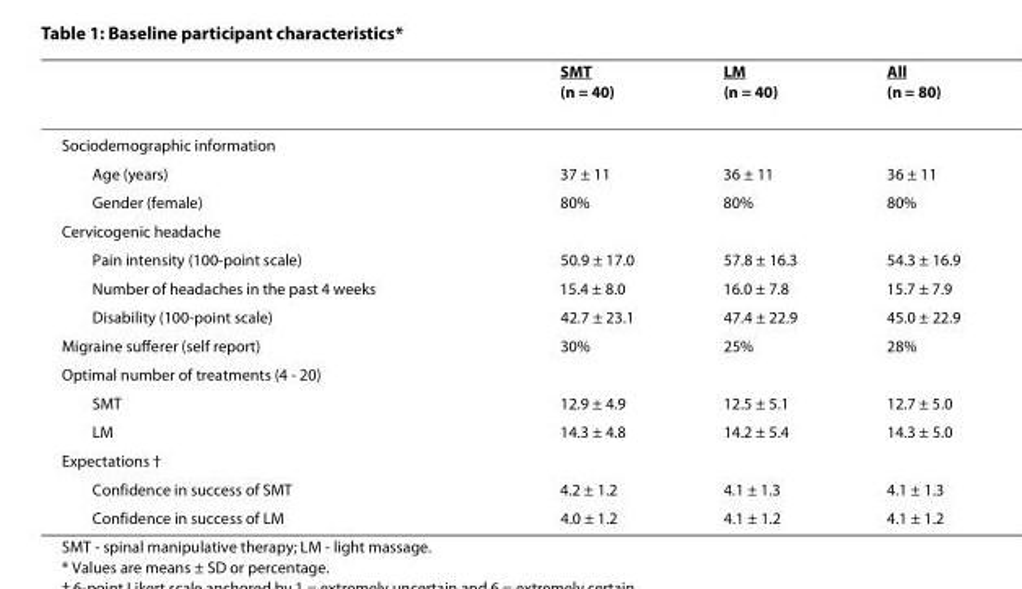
<table><thead><tr><td></td><td>SMT (n = 40)</td><td>LM (n = 40)</td><td>All (n = 80)</td></tr></thead><tbody><tr><td colspan="4">Sociodemographic information</td></tr><tr><td>Age (years)</td><td>37 ± 11</td><td>36 ± 11</td><td>36 ± 11</td></tr><tr><td>Gender (female)</td><td>80%</td><td>80%</td><td>80%</td></tr><tr><td colspan="4">Cervicogenic headache</td></tr><tr><td>Pain intensity (100-point scale)</td><td>50.9 ± 17.0</td><td>57.8 ± 16.3</td><td>54.3 ± 16.9</td></tr><tr><td>Number of headaches in the past 4 weeks</td><td>15.4 ± 8.0</td><td>16.0 ± 7.8</td><td>15.7 ± 7.9</td></tr><tr><td>Disability (100-point scale)</td><td>42.7 ± 23.1</td><td>47.4 ± 22.9</td><td>45.0 ± 22.9</td></tr><tr><td>Migraine sufferer (self report)</td><td>30%</td><td>25%</td><td>28%</td></tr><tr><td colspan="4">Optimal number of treatments (4 - 20)</td></tr><tr><td>SMT</td><td>12.9 ± 4.9</td><td>12.5 ± 5.1</td><td>12.7 ± 5.0</td></tr><tr><td>LM</td><td>14.3 ± 4.8</td><td>14.2 ± 5.4</td><td>14.3 ± 5.0</td></tr><tr><td colspan="4">Expectations †</td></tr><tr><td>Confidence in success of SMT</td><td>4.2 ± 1.2</td><td>4.1 ± 1.3</td><td>4.1 ± 1.3</td></tr><tr><td>Confidence in success of LM</td><td>4.0 ± 1.2</td><td>4.1 ± 1.2</td><td>4.1 ± 1.2</td></tr></tbody></table>